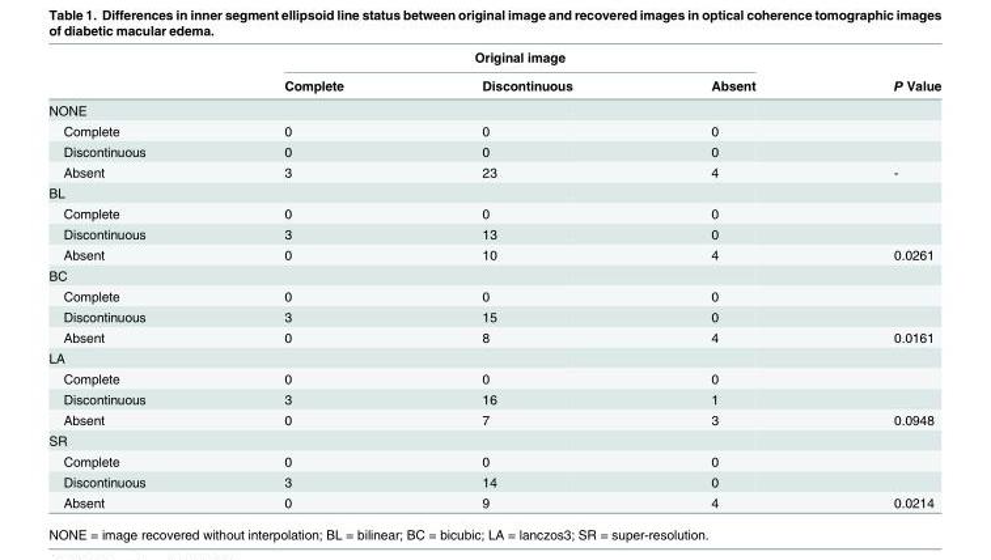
<table><thead><tr><td rowspan="2"></td><td colspan="3">Original image</td><td rowspan="2">P Value</td></tr><tr><td>Complete</td><td>Discontinuous</td><td>Absent</td></tr></thead><tbody><tr><td colspan="5">NONE</td></tr><tr><td>Complete</td><td>0</td><td>0</td><td>0</td><td></td></tr><tr><td>Discontinuous</td><td>0</td><td>0</td><td>0</td><td></td></tr><tr><td>Absent</td><td>3</td><td>23</td><td>4</td><td>-</td></tr><tr><td colspan="5">BL</td></tr><tr><td>Complete</td><td>0</td><td>0</td><td>0</td><td></td></tr><tr><td>Discontinuous</td><td>3</td><td>13</td><td>0</td><td></td></tr><tr><td>Absent</td><td>0</td><td>10</td><td>4</td><td>0.0261</td></tr><tr><td colspan="5">BC</td></tr><tr><td>Complete</td><td>0</td><td>0</td><td>0</td><td></td></tr><tr><td>Discontinuous</td><td>3</td><td>15</td><td>0</td><td></td></tr><tr><td>Absent</td><td>0</td><td>8</td><td>4</td><td>0.0161</td></tr><tr><td colspan="5">LA</td></tr><tr><td>Complete</td><td>0</td><td>0</td><td>0</td><td></td></tr><tr><td>Discontinuous</td><td>3</td><td>16</td><td>1</td><td></td></tr><tr><td>Absent</td><td>0</td><td>7</td><td>3</td><td>0.0948</td></tr><tr><td colspan="5">SR</td></tr><tr><td>Complete</td><td>0</td><td>0</td><td>0</td><td></td></tr><tr><td>Discontinuous</td><td>3</td><td>14</td><td>0</td><td></td></tr><tr><td>Absent</td><td>0</td><td>9</td><td>4</td><td>0.0214</td></tr></tbody></table>